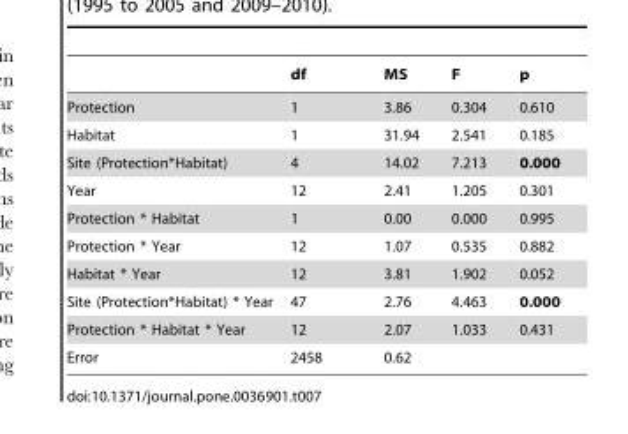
<table><thead><tr><td></td><td>df</td><td>MS</td><td>F</td><td>p</td></tr></thead><tbody><tr><td>Protection</td><td>1</td><td>3.86</td><td>0.304</td><td>0.610</td></tr><tr><td>Habitat</td><td>1</td><td>31.94</td><td>2.541</td><td>0.185</td></tr><tr><td>Site (Protection*Habitat)</td><td>4</td><td>14.02</td><td>7.213</td><td>0.000</td></tr><tr><td>Year</td><td>12</td><td>2.41</td><td>1.205</td><td>0.301</td></tr><tr><td>Protection * Habitat</td><td>1</td><td>0.00</td><td>0.000</td><td>0.995</td></tr><tr><td>Protection * Year</td><td>12</td><td>1.07</td><td>0.535</td><td>0.882</td></tr><tr><td>Habitat * Year</td><td>12</td><td>3.81</td><td>1.902</td><td>0.052</td></tr><tr><td>Site (Protection*Habitat) * Year</td><td>47</td><td>2.76</td><td>4.463</td><td>0.000</td></tr><tr><td>Protection * Habitat * Year</td><td>12</td><td>2.07</td><td>1.033</td><td>0.431</td></tr><tr><td>Error</td><td>2458</td><td>0.62</td><td></td><td></td></tr></tbody></table>